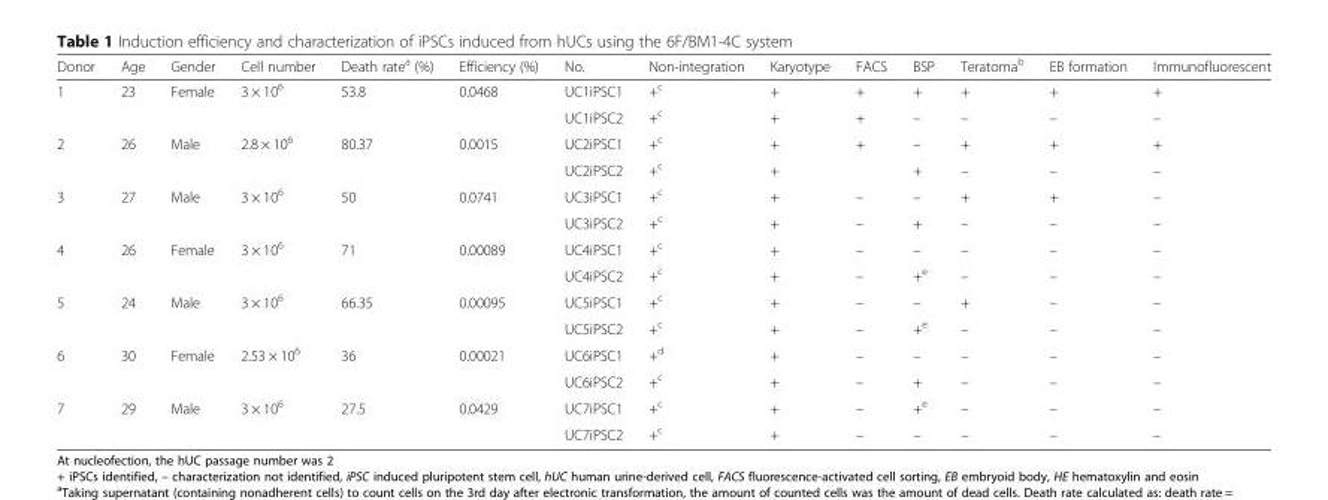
<table><thead><tr><td>Donor</td><td>Age</td><td>Gender</td><td>Cell number</td><td>Death rate<sup>a</sup> (%)</td><td>Efficiency (%)</td><td>No.</td><td>Non-integration</td><td>Karyotype</td><td>FACS</td><td>BSP</td><td>Teratoma<sup>b</sup></td><td>EB formation</td><td>Immunofluorescent</td></tr></thead><tbody><tr><td rowspan="2">1</td><td rowspan="2">23</td><td rowspan="2">Female</td><td rowspan="2">3 × 10<sup>6</sup></td><td rowspan="2">53.8</td><td rowspan="2">0.0468</td><td>UC1iPSC1</td><td>+<sup>c</sup></td><td>+</td><td>+</td><td>+</td><td>+</td><td>+</td><td>+</td></tr><tr><td>UC1iPSC2</td><td>+<sup>c</sup></td><td>+</td><td>+</td><td>–</td><td>–</td><td>–</td><td>–</td></tr><tr><td rowspan="2">2</td><td rowspan="2">26</td><td rowspan="2">Male</td><td rowspan="2">2.8 × 10<sup>6</sup></td><td rowspan="2">80.37</td><td rowspan="2">0.0015</td><td>UC2iPSC1</td><td>+<sup>c</sup></td><td>+</td><td>+</td><td>–</td><td>+</td><td>+</td><td>+</td></tr><tr><td>UC2iPSC2</td><td>+<sup>c</sup></td><td>+</td><td></td><td>+</td><td>–</td><td>–</td><td>–</td></tr><tr><td rowspan="2">3</td><td rowspan="2">27</td><td rowspan="2">Male</td><td rowspan="2">3 × 10<sup>6</sup></td><td rowspan="2">50</td><td rowspan="2">0.0741</td><td>UC3iPSC1</td><td>+<sup>c</sup></td><td>+</td><td>–</td><td>–</td><td>+</td><td>+</td><td>–</td></tr><tr><td>UC3iPSC2</td><td>+<sup>c</sup></td><td>+</td><td>–</td><td>+</td><td>–</td><td>–</td><td>–</td></tr><tr><td rowspan="2">4</td><td rowspan="2">26</td><td rowspan="2">Female</td><td rowspan="2">3 × 10<sup>6</sup></td><td rowspan="2">71</td><td rowspan="2">0.00089</td><td>UC4iPSC1</td><td>+<sup>c</sup></td><td>+</td><td>–</td><td>–</td><td>–</td><td>–</td><td>–</td></tr><tr><td>UC4iPSC2</td><td>+<sup>c</sup></td><td>+</td><td>–</td><td>+<sup>e</sup></td><td>–</td><td>–</td><td>–</td></tr><tr><td rowspan="2">5</td><td rowspan="2">24</td><td rowspan="2">Male</td><td rowspan="2">3 × 10<sup>6</sup></td><td rowspan="2">66.35</td><td rowspan="2">0.00095</td><td>UC5iPSC1</td><td>+<sup>c</sup></td><td>+</td><td>–</td><td>–</td><td>+</td><td>–</td><td>–</td></tr><tr><td>UC5iPSC2</td><td>+<sup>c</sup></td><td>+</td><td>–</td><td>+<sup>e</sup></td><td>–</td><td>–</td><td>–</td></tr><tr><td rowspan="2">6</td><td rowspan="2">30</td><td rowspan="2">Female</td><td rowspan="2">2.53 × 10<sup>6</sup></td><td rowspan="2">36</td><td rowspan="2">0.00021</td><td>UC6iPSC1</td><td>+<sup>d</sup></td><td>+</td><td>–</td><td>–</td><td>–</td><td>–</td><td>–</td></tr><tr><td>UC6iPSC2</td><td>+<sup>c</sup></td><td>+</td><td>–</td><td>+</td><td>–</td><td>–</td><td>–</td></tr><tr><td rowspan="2">7</td><td rowspan="2">29</td><td rowspan="2">Male</td><td rowspan="2">3 × 10<sup>6</sup></td><td rowspan="2">27.5</td><td rowspan="2">0.0429</td><td>UC7iPSC1</td><td>+<sup>c</sup></td><td>+</td><td>–</td><td>+<sup>e</sup></td><td>–</td><td>–</td><td>–</td></tr><tr><td>UC7iPSC2</td><td>+<sup>c</sup></td><td>+</td><td>–</td><td>–</td><td>–</td><td>–</td><td>–</td></tr></tbody></table>